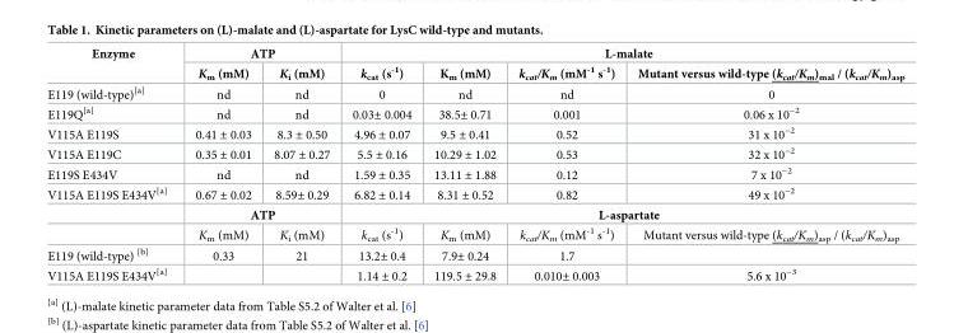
<table><thead><tr><td rowspan="2">Enzyme</td><td colspan="2">ATP</td><td colspan="4">L-malate</td></tr><tr><td>K<sub>m</sub> (mM)</td><td>K<sub>i</sub> (mM)</td><td>k<sub>cat</sub> (s<sup>-1</sup>)</td><td>K<sub>m</sub> (mM)</td><td>k<sub>cat</sub>/K<sub>m</sub> (mM<sup>-1</sup> s<sup>-1</sup>)</td><td>Mutant versus wild-type (k<sub>cat</sub>/K<sub>m</sub>)<sub>mal</sub> / (k<sub>cat</sub>/K<sub>m</sub>)<sub>asp</sub></td></tr></thead><tbody><tr><td>E119 (wild-type)<sup>[a]</sup></td><td>nd</td><td>nd</td><td>0</td><td>nd</td><td>nd</td><td>0</td></tr><tr><td>E119Q<sup>[a]</sup></td><td>nd</td><td>nd</td><td>0.03± 0.004</td><td>38.5± 0.71</td><td>0.001</td><td>0.06 x 10<sup>−2</sup></td></tr><tr><td>V115A E119S</td><td>0.41 ± 0.03</td><td>8.3 ± 0.50</td><td>4.96 ± 0.07</td><td>9.5 ± 0.41</td><td>0.52</td><td>31 x 10<sup>−2</sup></td></tr><tr><td>V115A E119C</td><td>0.35 ± 0.01</td><td>8.07 ± 0.27</td><td>5.5 ± 0.16</td><td>10.29 ± 1.02</td><td>0.53</td><td>32 x 10<sup>−2</sup></td></tr><tr><td>E119S E434V</td><td>nd</td><td>nd</td><td>1.59 ± 0.35</td><td>13.11 ± 1.88</td><td>0.12</td><td>7 x 10<sup>−2</sup></td></tr><tr><td rowspan="3">V115A E119S E434V<sup>[a]</sup></td><td>0.67 ± 0.02</td><td>8.59± 0.29</td><td>6.82 ± 0.14</td><td>8.31 ± 0.52</td><td>0.82</td><td>49 x 10<sup>−2</sup></td></tr><tr><td colspan="2">ATP</td><td colspan="4">L-aspartate</td></tr><tr><td>K<sub>m</sub> (mM)</td><td>K<sub>i</sub> (mM)</td><td>k<sub>cat</sub> (s<sup>-1</sup>)</td><td>K<sub>m</sub> (mM)</td><td>k<sub>cat</sub>/K<sub>m</sub> (mM<sup>-1</sup> s<sup>-1</sup>)</td><td>Mutant versus wild-type (k<sub>cat</sub>/K<sub>m</sub>)<sub>asp</sub> / (k<sub>cat</sub>/K<sub>m</sub>)<sub>asp</sub></td></tr><tr><td>E119 (wild-type) <sup>[b]</sup></td><td>0.33</td><td>21</td><td>13.2± 0.4</td><td>7.9± 0.24</td><td>1.7</td><td></td></tr><tr><td>V115A E119S E434V<sup>[a]</sup></td><td></td><td></td><td>1.14 ± 0.2</td><td>119.5 ± 29.8</td><td>0.010± 0.003</td><td>5.6 x 10<sup>−3</sup></td></tr></tbody></table>